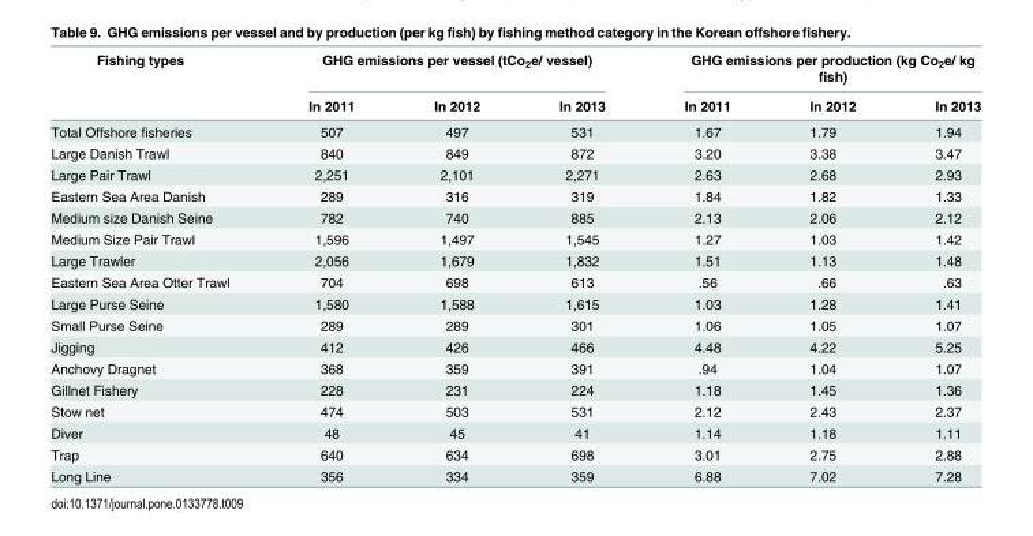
<table><thead><tr><td rowspan="2">Fishing types</td><td colspan="3">GHG emissions per vessel (tCo<sub>2</sub>e/ vessel)</td><td colspan="3">GHG emissions per production (kg Co<sub>2</sub>e/ kg fish)</td></tr><tr><td>In 2011</td><td>In 2012</td><td>In 2013</td><td>In 2011</td><td>In 2012</td><td>In 2013</td></tr></thead><tbody><tr><td>Total Offshore fisheries</td><td>507</td><td>497</td><td>531</td><td>1.67</td><td>1.79</td><td>1.94</td></tr><tr><td>Large Danish Trawl</td><td>840</td><td>849</td><td>872</td><td>3.20</td><td>3.38</td><td>3.47</td></tr><tr><td>Large Pair Trawl</td><td>2,251</td><td>2,101</td><td>2,271</td><td>2.63</td><td>2.68</td><td>2.93</td></tr><tr><td>Eastern Sea Area Danish</td><td>289</td><td>316</td><td>319</td><td>1.84</td><td>1.82</td><td>1.33</td></tr><tr><td>Medium size Danish Seine</td><td>782</td><td>740</td><td>885</td><td>2.13</td><td>2.06</td><td>2.12</td></tr><tr><td>Medium Size Pair Trawl</td><td>1,596</td><td>1,497</td><td>1,545</td><td>1.27</td><td>1.03</td><td>1.42</td></tr><tr><td>Large Trawler</td><td>2,056</td><td>1,679</td><td>1,832</td><td>1.51</td><td>1.13</td><td>1.48</td></tr><tr><td>Eastern Sea Area Otter Trawl</td><td>704</td><td>698</td><td>613</td><td>.56</td><td>.66</td><td>.63</td></tr><tr><td>Large Purse Seine</td><td>1,580</td><td>1,588</td><td>1,615</td><td>1.03</td><td>1.28</td><td>1.41</td></tr><tr><td>Small Purse Seine</td><td>289</td><td>289</td><td>301</td><td>1.06</td><td>1.05</td><td>1.07</td></tr><tr><td>Jigging</td><td>412</td><td>426</td><td>466</td><td>4.48</td><td>4.22</td><td>5.25</td></tr><tr><td>Anchovy Dragnet</td><td>368</td><td>359</td><td>391</td><td>.94</td><td>1.04</td><td>1.07</td></tr><tr><td>Gillnet Fishery</td><td>228</td><td>231</td><td>224</td><td>1.18</td><td>1.45</td><td>1.36</td></tr><tr><td>Stow net</td><td>474</td><td>503</td><td>531</td><td>2.12</td><td>2.43</td><td>2.37</td></tr><tr><td>Diver</td><td>48</td><td>45</td><td>41</td><td>1.14</td><td>1.18</td><td>1.11</td></tr><tr><td>Trap</td><td>640</td><td>634</td><td>698</td><td>3.01</td><td>2.75</td><td>2.88</td></tr><tr><td>Long Line</td><td>356</td><td>334</td><td>359</td><td>6.88</td><td>7.02</td><td>7.28</td></tr></tbody></table>